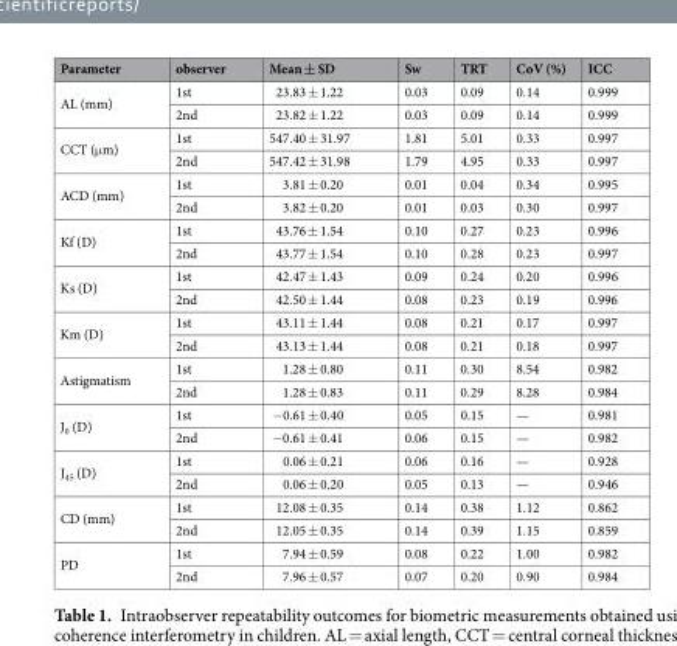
<table><thead><tr><td>Parameter</td><td>observer</td><td>Mean ± SD</td><td>Sw</td><td>TRT</td><td>CoV (%)</td><td>ICC</td></tr></thead><tbody><tr><td rowspan="2">AL (mm)</td><td>1st</td><td>23.83 ± 1.22</td><td>0.03</td><td>0.09</td><td>0.14</td><td>0.999</td></tr><tr><td>2nd</td><td>23.82 ± 1.22</td><td>0.03</td><td>0.09</td><td>0.14</td><td>0.999</td></tr><tr><td rowspan="2">CCT (μm)</td><td>1st</td><td>547.40 ± 31.97</td><td>1.81</td><td>5.01</td><td>0.33</td><td>0.997</td></tr><tr><td>2nd</td><td>547.42 ± 31.98</td><td>1.79</td><td>4.95</td><td>0.33</td><td>0.997</td></tr><tr><td rowspan="2">ACD (mm)</td><td>1st</td><td>3.81 ± 0.20</td><td>0.01</td><td>0.04</td><td>0.34</td><td>0.995</td></tr><tr><td>2nd</td><td>3.82 ± 0.20</td><td>0.01</td><td>0.03</td><td>0.30</td><td>0.997</td></tr><tr><td rowspan="2">Kf (D)</td><td>1st</td><td>43.76 ± 1.54</td><td>0.10</td><td>0.27</td><td>0.23</td><td>0.996</td></tr><tr><td>2nd</td><td>43.77 ± 1.54</td><td>0.10</td><td>0.28</td><td>0.23</td><td>0.997</td></tr><tr><td rowspan="2">Ks (D)</td><td>1st</td><td>42.47 ± 1.43</td><td>0.09</td><td>0.24</td><td>0.20</td><td>0.996</td></tr><tr><td>2nd</td><td>42.50 ± 1.44</td><td>0.08</td><td>0.23</td><td>0.19</td><td>0.996</td></tr><tr><td rowspan="2">Km (D)</td><td>1st</td><td>43.11 ± 1.44</td><td>0.08</td><td>0.21</td><td>0.17</td><td>0.997</td></tr><tr><td>2nd</td><td>43.13 ± 1.44</td><td>0.08</td><td>0.21</td><td>0.18</td><td>0.997</td></tr><tr><td rowspan="2">Astigmatism</td><td>1st</td><td>1.28 ± 0.80</td><td>0.11</td><td>0.30</td><td>8.54</td><td>0.982</td></tr><tr><td>2nd</td><td>1.28 ± 0.83</td><td>0.11</td><td>0.29</td><td>8.28</td><td>0.984</td></tr><tr><td rowspan="2">J<sub>0</sub> (D)</td><td>1st</td><td>−0.61 ± 0.40</td><td>0.05</td><td>0.15</td><td>—</td><td>0.981</td></tr><tr><td>2nd</td><td>−0.61 ± 0.41</td><td>0.06</td><td>0.15</td><td>—</td><td>0.982</td></tr><tr><td rowspan="2">J<sub>45</sub> (D)</td><td>1st</td><td>0.06 ± 0.21</td><td>0.06</td><td>0.16</td><td>—</td><td>0.928</td></tr><tr><td>2nd</td><td>0.06 ± 0.20</td><td>0.05</td><td>0.13</td><td>—</td><td>0.946</td></tr><tr><td rowspan="2">CD (mm)</td><td>1st</td><td>12.08 ± 0.35</td><td>0.14</td><td>0.38</td><td>1.12</td><td>0.862</td></tr><tr><td>2nd</td><td>12.05 ± 0.35</td><td>0.14</td><td>0.39</td><td>1.15</td><td>0.859</td></tr><tr><td rowspan="2">PD</td><td>1st</td><td>7.94 ± 0.59</td><td>0.08</td><td>0.22</td><td>1.00</td><td>0.982</td></tr><tr><td>2nd</td><td>7.96 ± 0.57</td><td>0.07</td><td>0.20</td><td>0.90</td><td>0.984</td></tr></tbody></table>